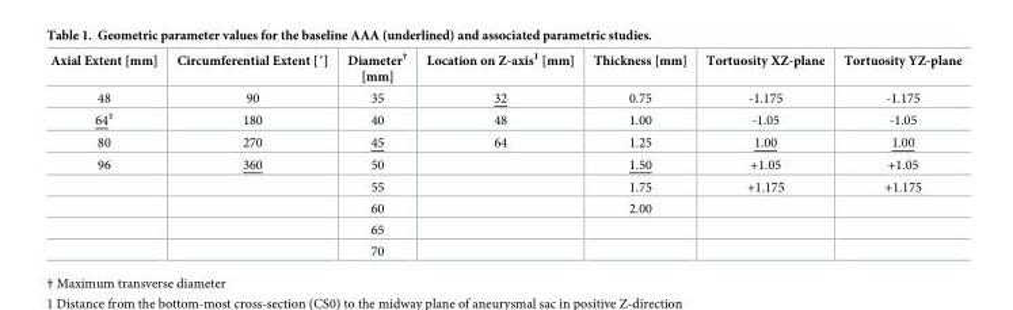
<table><thead><tr><td>Axial Extent [mm]</td><td>Circumferential Extent [˚]</td><td>Diameter<sup>†</sup> [mm]</td><td>Location on Z-axis<sup>1</sup> [mm]</td><td>Thickness [mm]</td><td>Tortuosity XZ-plane</td><td>Tortuosity YZ-plane</td></tr></thead><tbody><tr><td>48</td><td>90</td><td>35</td><td>32</td><td>0.75</td><td>-1.175</td><td>-1.175</td></tr><tr><td>64<sup>‡</sup></td><td>180</td><td>40</td><td>48</td><td>1.00</td><td>-1.05</td><td>-1.05</td></tr><tr><td>80</td><td>270</td><td>45</td><td>64</td><td>1.25</td><td>1.00</td><td>1.00</td></tr><tr><td rowspan="5">96</td><td>360</td><td>50</td><td></td><td>1.50</td><td>+1.05</td><td>+1.05</td></tr><tr><td></td><td>55</td><td></td><td>1.75</td><td>+1.175</td><td>+1.175</td></tr><tr><td></td><td>60</td><td></td><td>2.00</td><td></td><td></td></tr><tr><td></td><td>65</td><td></td><td></td><td></td><td></td></tr><tr><td></td><td>70</td><td></td><td></td><td></td><td></td></tr></tbody></table>